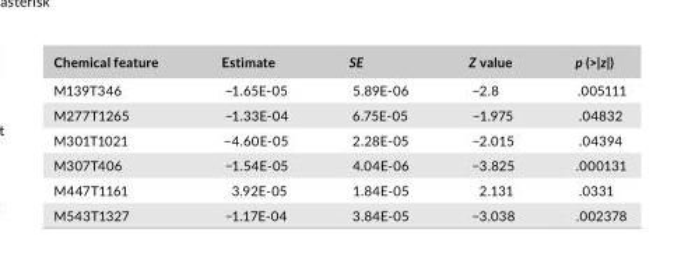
<table><thead><tr><td>Chemical feature</td><td>Estimate</td><td>SE</td><td>Z value</td><td>p (&gt;|z|)</td></tr></thead><tbody><tr><td>M139T346</td><td>−1.65E- 05</td><td>5.89E- 06</td><td>−2.8</td><td>.005111</td></tr><tr><td>M277T1265</td><td>−1.33E- 04</td><td>6.75E- 05</td><td>−1.975</td><td>.04832</td></tr><tr><td>M301T1021</td><td>−4.60E- 05</td><td>2.28E- 05</td><td>−2.015</td><td>.04394</td></tr><tr><td>M307T406</td><td>−1.54E- 05</td><td>4.04E- 06</td><td>−3.825</td><td>.000131</td></tr><tr><td>M447T1161</td><td>3.92E- 05</td><td>1.84E- 05</td><td>2.131</td><td>.0331</td></tr><tr><td>M543T1327</td><td>−1.17E- 04</td><td>3.84E- 05</td><td>−3.038</td><td>.002378</td></tr></tbody></table>